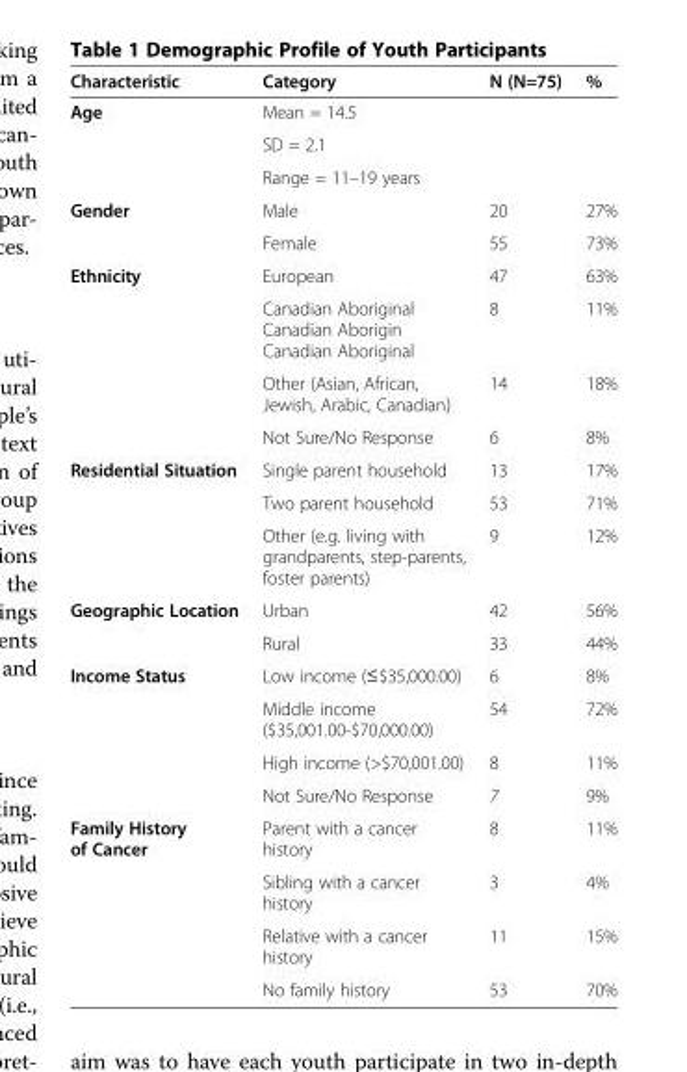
<table><thead><tr><td>Characteristic</td><td>Category</td><td>N (N=75)</td><td>%</td></tr></thead><tbody><tr><td rowspan="3">Age</td><td>Mean = 14.5</td><td></td><td></td></tr><tr><td>SD = 2.1</td><td></td><td></td></tr><tr><td>Range = 11–19 years</td><td></td><td></td></tr><tr><td rowspan="2">Gender</td><td>Male</td><td>20</td><td>27%</td></tr><tr><td>Female</td><td>55</td><td>73%</td></tr><tr><td rowspan="4">Ethnicity</td><td>European</td><td>47</td><td>63%</td></tr><tr><td>Canadian Aboriginal Canadian Aborigin Canadian Aboriginal</td><td>8</td><td>11%</td></tr><tr><td>Other (Asian, African, Jewish, Arabic, Canadian)</td><td>14</td><td>18%</td></tr><tr><td>Not Sure/No Response</td><td>6</td><td>8%</td></tr><tr><td rowspan="3">Residential Situation</td><td>Single parent household</td><td>13</td><td>17%</td></tr><tr><td>Two parent household</td><td>53</td><td>71%</td></tr><tr><td>Other (e.g. living with grandparents, step-parents, foster parents)</td><td>9</td><td>12%</td></tr><tr><td rowspan="2">Geographic Location</td><td>Urban</td><td>42</td><td>56%</td></tr><tr><td>Rural</td><td>33</td><td>44%</td></tr><tr><td rowspan="4">Income Status</td><td>Low income (≤$35,000.00)</td><td>6</td><td>8%</td></tr><tr><td>Middle income ($35,001.00-$70,000.00)</td><td>54</td><td>72%</td></tr><tr><td>High income (&gt;$70,001.00)</td><td>8</td><td>11%</td></tr><tr><td>Not Sure/No Response</td><td>7</td><td>9%</td></tr><tr><td rowspan="4">Family History of Cancer</td><td>Parent with a cancer history</td><td>8</td><td>11%</td></tr><tr><td>Sibling with a cancer history</td><td>3</td><td>4%</td></tr><tr><td>Relative with a cancer history</td><td>11</td><td>15%</td></tr><tr><td>No family history</td><td>53</td><td>70%</td></tr></tbody></table>